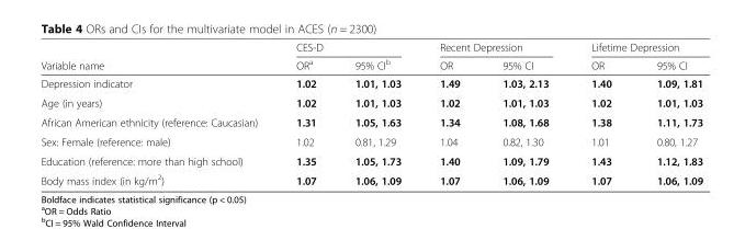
<table><thead><tr><td rowspan="2">Variable name</td><td colspan="2">CES-D</td><td colspan="2">Recent Depression</td><td colspan="2">Lifetime Depression</td></tr><tr><td>OR<sup>a</sup></td><td>95% CI<sup>b</sup></td><td>OR</td><td>95% CI</td><td>OR</td><td>95% CI</td></tr></thead><tbody><tr><td>Depression indicator</td><td>1.02</td><td>1.01, 1.03</td><td>1.49</td><td>1.03, 2.13</td><td>1.40</td><td>1.09, 1.81</td></tr><tr><td>Age (in years)</td><td>1.02</td><td>1.01, 1.03</td><td>1.02</td><td>1.01, 1.03</td><td>1.02</td><td>1.01, 1.03</td></tr><tr><td>African American ethnicity (reference: Caucasian)</td><td>1.31</td><td>1.05, 1.63</td><td>1.34</td><td>1.08, 1.68</td><td>1.38</td><td>1.11, 1.73</td></tr><tr><td>Sex: Female (reference: male)</td><td>1.02</td><td>0.81, 1.29</td><td>1.04</td><td>0.82, 1.30</td><td>1.01</td><td>0.80, 1.27</td></tr><tr><td>Education (reference: more than high school)</td><td>1.35</td><td>1.05, 1.73</td><td>1.40</td><td>1.09, 1.79</td><td>1.43</td><td>1.12, 1.83</td></tr><tr><td>Body mass index (in kg/m<sup>2</sup>)</td><td>1.07</td><td>1.06, 1.09</td><td>1.07</td><td>1.06, 1.09</td><td>1.07</td><td>1.06, 1.09</td></tr></tbody></table>